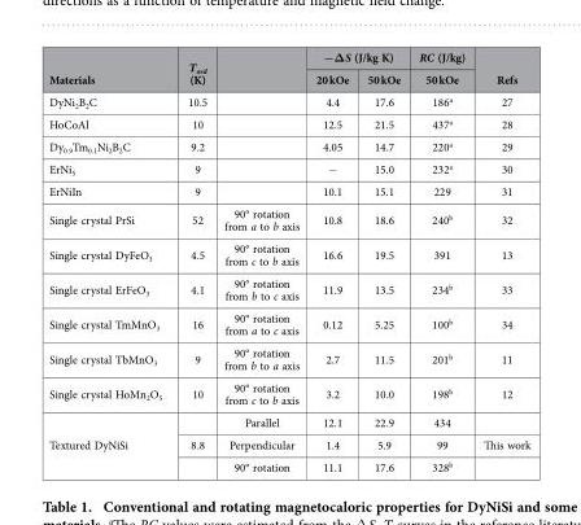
<table><thead><tr><td rowspan="2">Materials</td><td rowspan="2">T<sub>ord</sub> (K)</td><td rowspan="2"></td><td colspan="2">−ΔS (J/kg K)</td><td rowspan="2">RC (J/kg) 50 kOe</td><td rowspan="2">Refs</td></tr><tr><td>20 kOe</td><td>50 kOe</td></tr></thead><tbody><tr><td>DyNi<sub>2</sub>B<sub>2</sub>C</td><td>10.5</td><td></td><td>4.4</td><td>17.6</td><td>186<sup>a</sup></td><td>27</td></tr><tr><td>HoCoAl</td><td>10</td><td></td><td>12.5</td><td>21.5</td><td>437<sup>a</sup></td><td>28</td></tr><tr><td>Dy<sub>0.9</sub>Tm<sub>0.1</sub>Ni<sub>2</sub>B<sub>2</sub>C</td><td>9.2</td><td></td><td>4.05</td><td>14.7</td><td>220<sup>a</sup></td><td>29</td></tr><tr><td>ErNi<sub>5</sub></td><td>9</td><td></td><td>−</td><td>15.0</td><td>232<sup>a</sup></td><td>30</td></tr><tr><td>ErNiIn</td><td>9</td><td></td><td>10.1</td><td>15.1</td><td>229</td><td>31</td></tr><tr><td>Single crystal PrSi</td><td>52</td><td>90° rotation from a to b axis</td><td>10.8</td><td>18.6</td><td>240<sup>b</sup></td><td>32</td></tr><tr><td>Single crystal DyFeO<sub>3</sub></td><td>4.5</td><td>90° rotation from c to b axis</td><td>16.6</td><td>19.5</td><td>391</td><td>13</td></tr><tr><td>Single crystal ErFeO<sub>3</sub></td><td>4.1</td><td>90° rotation from b to c axis</td><td>11.9</td><td>13.5</td><td>234<sup>b</sup></td><td>33</td></tr><tr><td>Single crystal TmMnO<sub>3</sub></td><td>16</td><td>90° rotation from a to c axis</td><td>0.12</td><td>5.25</td><td>100<sup>b</sup></td><td>34</td></tr><tr><td>Single crystal TbMnO<sub>3</sub></td><td>9</td><td>90° rotation from b to a axis</td><td>2.7</td><td>11.5</td><td>201<sup>b</sup></td><td>11</td></tr><tr><td>Single crystal HoMn<sub>2</sub>O<sub>5</sub></td><td>10</td><td>90° rotation from c to b axis</td><td>3.2</td><td>10.0</td><td>198<sup>b</sup></td><td>12</td></tr><tr><td rowspan="3">Textured DyNiSi</td><td></td><td>Parallel</td><td>12.1</td><td>22.9</td><td>434</td><td></td></tr><tr><td>8.8</td><td>Perpendicular</td><td>1.4</td><td>5.9</td><td>99</td><td>This work</td></tr><tr><td></td><td>90° rotation</td><td>11.1</td><td>17.6</td><td>328<sup>b</sup></td><td></td></tr></tbody></table>